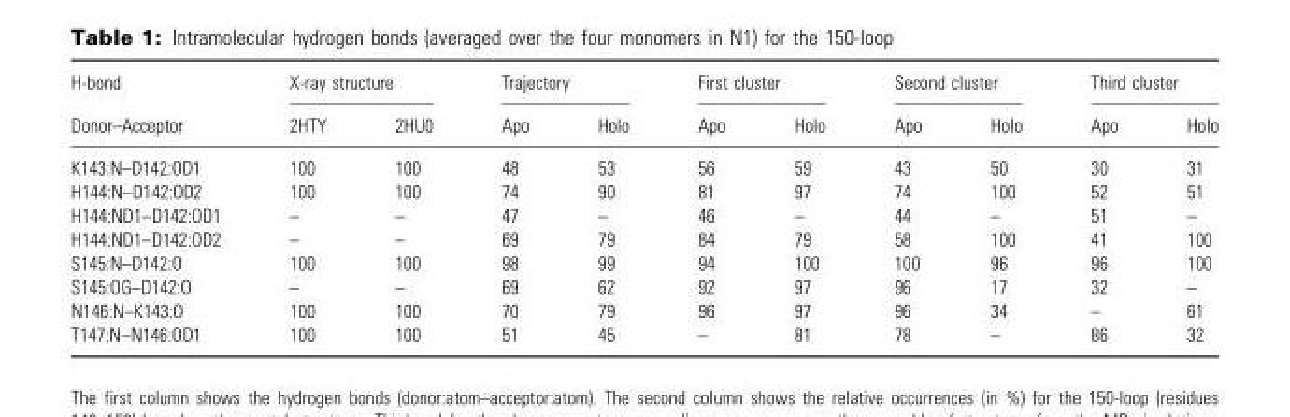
<table><thead><tr><td rowspan="2">H-bond Donor–Acceptor</td><td colspan="2">X-ray structure</td><td colspan="2">Trajectory</td><td colspan="2">First cluster</td><td colspan="2">Second cluster</td><td colspan="2">Third cluster</td></tr><tr><td>2HTY</td><td>2HU0</td><td>Apo</td><td>Holo</td><td>Apo</td><td>Holo</td><td>Apo</td><td>Holo</td><td>Apo</td><td>Holo</td></tr></thead><tbody><tr><td>K143:N–D142:OD1</td><td>100</td><td>100</td><td>48</td><td>53</td><td>56</td><td>59</td><td>43</td><td>50</td><td>30</td><td>31</td></tr><tr><td>H144:N–D142:OD2</td><td>100</td><td>100</td><td>74</td><td>90</td><td>81</td><td>97</td><td>74</td><td>100</td><td>52</td><td>51</td></tr><tr><td>H144:ND1–D142:OD1</td><td>–</td><td>–</td><td>47</td><td>–</td><td>46</td><td>–</td><td>44</td><td>–</td><td>51</td><td>–</td></tr><tr><td>H144:ND1–D142:OD2</td><td>–</td><td>–</td><td>69</td><td>79</td><td>84</td><td>79</td><td>58</td><td>100</td><td>41</td><td>100</td></tr><tr><td>S145:N–D142:O</td><td>100</td><td>100</td><td>98</td><td>99</td><td>94</td><td>100</td><td>100</td><td>96</td><td>96</td><td>100</td></tr><tr><td>S145:OG–D142:O</td><td>–</td><td>–</td><td>69</td><td>62</td><td>92</td><td>97</td><td>96</td><td>17</td><td>32</td><td>–</td></tr><tr><td>N146:N–K143:O</td><td>100</td><td>100</td><td>70</td><td>79</td><td>96</td><td>97</td><td>96</td><td>34</td><td>–</td><td>61</td></tr><tr><td>T147:N–N146:OD1</td><td>100</td><td>100</td><td>51</td><td>45</td><td>–</td><td>81</td><td>78</td><td>–</td><td>86</td><td>32</td></tr></tbody></table>